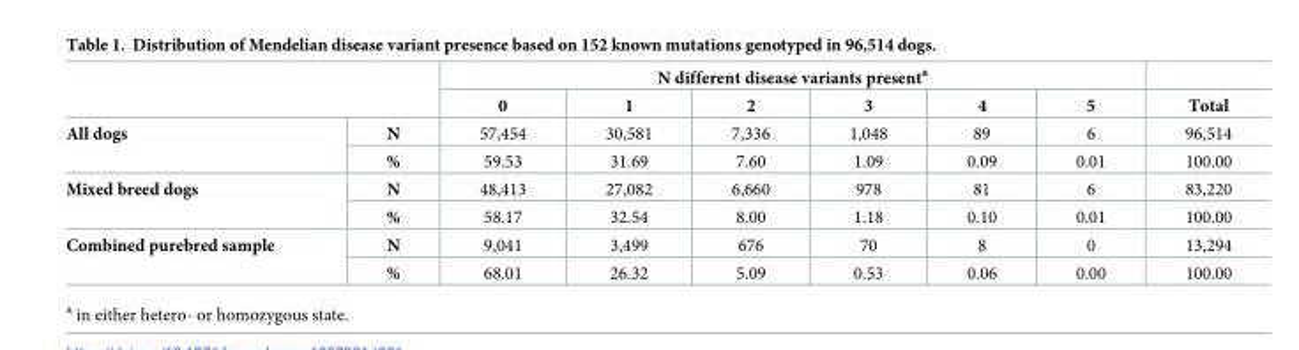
<table><thead><tr><td rowspan="2"></td><td rowspan="2"></td><td colspan="6">N different disease variants present<sup>a</sup></td><td rowspan="2">Total</td></tr><tr><td>0</td><td>1</td><td>2</td><td>3</td><td>4</td><td>5</td></tr></thead><tbody><tr><td rowspan="2">All dogs</td><td>N</td><td>57,454</td><td>30,581</td><td>7,336</td><td>1,048</td><td>89</td><td>6</td><td>96,514</td></tr><tr><td>%</td><td>59.53</td><td>31.69</td><td>7.60</td><td>1.09</td><td>0.09</td><td>0.01</td><td>100.00</td></tr><tr><td rowspan="2">Mixed breed dogs</td><td>N</td><td>48,413</td><td>27,082</td><td>6,660</td><td>978</td><td>81</td><td>6</td><td>83,220</td></tr><tr><td>%</td><td>58.17</td><td>32.54</td><td>8.00</td><td>1.18</td><td>0.10</td><td>0.01</td><td>100.00</td></tr><tr><td rowspan="2">Combined purebred sample</td><td>N</td><td>9,041</td><td>3,499</td><td>676</td><td>70</td><td>8</td><td>0</td><td>13,294</td></tr><tr><td>%</td><td>68.01</td><td>26.32</td><td>5.09</td><td>0.53</td><td>0.06</td><td>0.00</td><td>100.00</td></tr></tbody></table>